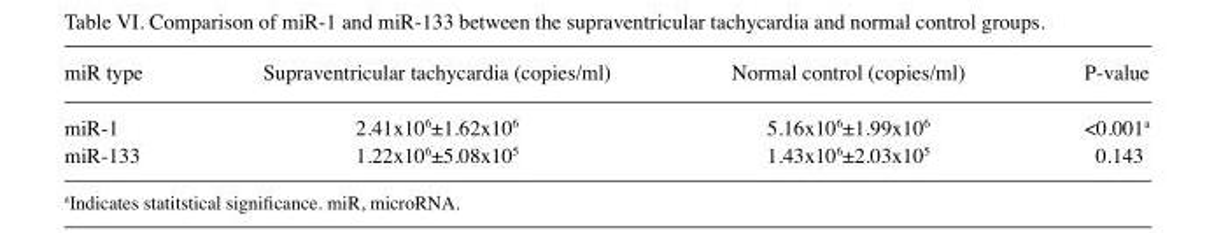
<table><thead><tr><td>miR type</td><td>Supraventricular tachycardia (copies/ml)</td><td>Normal control (copies/ml)</td><td>P-value</td></tr></thead><tbody><tr><td>miR-1</td><td>2.41x106±1.62x106</td><td>5.16x106±1.99x106</td><td>&lt;0.001<sup>a</sup></td></tr><tr><td>miR-133</td><td>1.22x106±5.08x105</td><td>1.43x106±2.03x105</td><td>0.143</td></tr></tbody></table>